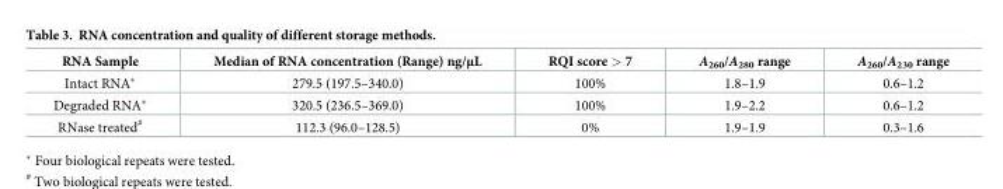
<table><thead><tr><td>RNA Sample</td><td>Median of RNA concentration (Range) ng/μL</td><td>RQI score &gt; 7</td><td>A<sub>260</sub>/A<sub>280</sub> range</td><td>A<sub>260</sub>/A<sub>230</sub> range</td></tr></thead><tbody><tr><td>Intact RNA*</td><td>279.5 (197.5–340.0)</td><td>100%</td><td>1.8–1.9</td><td>0.6–1.2</td></tr><tr><td>Degraded RNA*</td><td>320.5 (236.5–369.0)</td><td>100%</td><td>1.9–2.2</td><td>0.6–1.2</td></tr><tr><td>RNase treated<sup>#</sup></td><td>112.3 (96.0–128.5)</td><td>0%</td><td>1.9–1.9</td><td>0.3–1.6</td></tr></tbody></table>